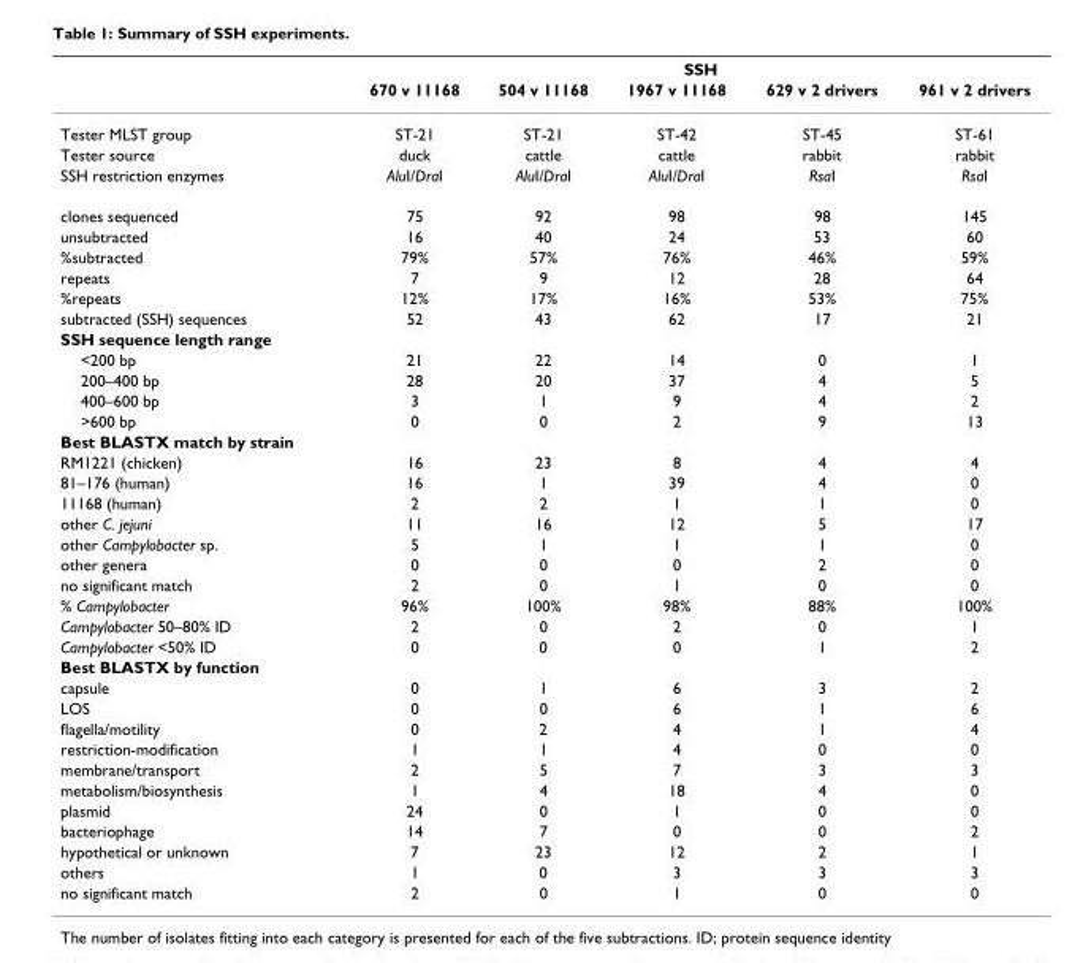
<table><thead><tr><td rowspan="2"></td><td colspan="5">SSH</td></tr><tr><td>670 v 11168</td><td>504 v 11168</td><td>1967 v 11168</td><td>629 v 2 drivers</td><td>961 v 2 drivers</td></tr></thead><tbody><tr><td>Tester MLST group</td><td>ST-21</td><td>ST-21</td><td>ST-42</td><td>ST-45</td><td>ST-61</td></tr><tr><td>Tester source</td><td>duck</td><td>cattle</td><td>cattle</td><td>rabbit</td><td>rabbit</td></tr><tr><td>SSH restriction enzymes</td><td>AluI/DraI</td><td>AluI/DraI</td><td>AluI/DraI</td><td>RsaI</td><td>RsaI</td></tr><tr><td>clones sequenced</td><td>75</td><td>92</td><td>98</td><td>98</td><td>145</td></tr><tr><td>unsubtracted</td><td>16</td><td>40</td><td>24</td><td>53</td><td>60</td></tr><tr><td>%subtracted</td><td>79%</td><td>57%</td><td>76%</td><td>46%</td><td>59%</td></tr><tr><td>repeats</td><td>7</td><td>9</td><td>12</td><td>28</td><td>64</td></tr><tr><td>%repeats</td><td>12%</td><td>17%</td><td>16%</td><td>53%</td><td>75%</td></tr><tr><td>subtracted (SSH) sequences</td><td>52</td><td>43</td><td>62</td><td>17</td><td>21</td></tr><tr><td colspan="6">SSH sequence length range</td></tr><tr><td>&lt;200 bp</td><td>21</td><td>22</td><td>14</td><td>0</td><td>1</td></tr><tr><td>200–400 bp</td><td>28</td><td>20</td><td>37</td><td>4</td><td>5</td></tr><tr><td>400–600 bp</td><td>3</td><td>1</td><td>9</td><td>4</td><td>2</td></tr><tr><td>&gt;600 bp</td><td>0</td><td>0</td><td>2</td><td>9</td><td>13</td></tr><tr><td colspan="6">Best BLASTX match by strain</td></tr><tr><td>RM1221 (chicken)</td><td>16</td><td>23</td><td>8</td><td>4</td><td>4</td></tr><tr><td>81–176 (human)</td><td>16</td><td>1</td><td>39</td><td>4</td><td>0</td></tr><tr><td>11168 (human)</td><td>2</td><td>2</td><td>1</td><td>1</td><td>0</td></tr><tr><td>other C. jejuni</td><td>11</td><td>16</td><td>12</td><td>5</td><td>17</td></tr><tr><td>other Campylobacter sp.</td><td>5</td><td>1</td><td>1</td><td>1</td><td>0</td></tr><tr><td>other genera</td><td>0</td><td>0</td><td>0</td><td>2</td><td>0</td></tr><tr><td>no significant match</td><td>2</td><td>0</td><td>1</td><td>0</td><td>0</td></tr><tr><td>% Campylobacter</td><td>96%</td><td>100%</td><td>98%</td><td>88%</td><td>100%</td></tr><tr><td>Campylobacter 50–80% ID</td><td>2</td><td>0</td><td>2</td><td>0</td><td>1</td></tr><tr><td>Campylobacter &lt;50% ID</td><td>0</td><td>0</td><td>0</td><td>1</td><td>2</td></tr><tr><td colspan="6">Best BLASTX by function</td></tr><tr><td>capsule</td><td>0</td><td>1</td><td>6</td><td>3</td><td>2</td></tr><tr><td>LOS</td><td>0</td><td>0</td><td>6</td><td>1</td><td>6</td></tr><tr><td>flagella/motility</td><td>0</td><td>2</td><td>4</td><td>1</td><td>4</td></tr><tr><td>restriction-modification</td><td>1</td><td>1</td><td>4</td><td>0</td><td>0</td></tr><tr><td>membrane/transport</td><td>2</td><td>5</td><td>7</td><td>3</td><td>3</td></tr><tr><td>metabolism/biosynthesis</td><td>1</td><td>4</td><td>18</td><td>4</td><td>0</td></tr><tr><td>plasmid</td><td>24</td><td>0</td><td>1</td><td>0</td><td>0</td></tr><tr><td>bacteriophage</td><td>14</td><td>7</td><td>0</td><td>0</td><td>2</td></tr><tr><td>hypothetical or unknown</td><td>7</td><td>23</td><td>12</td><td>2</td><td>1</td></tr><tr><td>others</td><td>1</td><td>0</td><td>3</td><td>3</td><td>3</td></tr><tr><td>no significant match</td><td>2</td><td>0</td><td>1</td><td>0</td><td>0</td></tr></tbody></table>